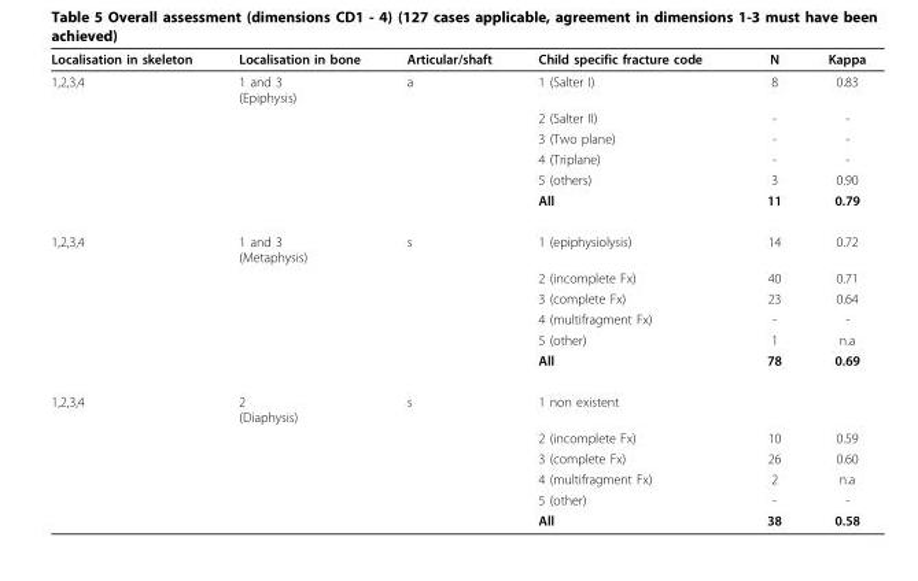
<table><thead><tr><td>Localisation in skeleton</td><td>Localisation in bone</td><td>Articular/shaft</td><td>Child specific fracture code</td><td>N</td><td>Kappa</td></tr></thead><tbody><tr><td rowspan="6">1,2,3,4</td><td>1 and 3 (Epiphysis)</td><td>a</td><td>1 (Salter I)</td><td>8</td><td>0.83</td></tr><tr><td></td><td></td><td>2 (Salter II)</td><td>-</td><td>-</td></tr><tr><td></td><td></td><td>3 (Two plane)</td><td>-</td><td>-</td></tr><tr><td></td><td></td><td>4 (Triplane)</td><td>-</td><td>-</td></tr><tr><td></td><td></td><td>5 (others)</td><td>3</td><td>0.90</td></tr><tr><td></td><td></td><td>All</td><td>11</td><td>0.79</td></tr><tr><td rowspan="6">1,2,3,4</td><td>1 and 3 (Metaphysis)</td><td>s</td><td>1 (epiphysiolysis)</td><td>14</td><td>0.72</td></tr><tr><td></td><td></td><td>2 (incomplete Fx)</td><td>40</td><td>0.71</td></tr><tr><td></td><td></td><td>3 (complete Fx)</td><td>23</td><td>0.64</td></tr><tr><td></td><td></td><td>4 (multifragment Fx)</td><td>-</td><td>-</td></tr><tr><td></td><td></td><td>5 (other)</td><td>1</td><td>n.a</td></tr><tr><td></td><td></td><td>All</td><td>78</td><td>0.69</td></tr><tr><td rowspan="6">1,2,3,4</td><td>2 (Diaphysis)</td><td>s</td><td>1 non existent</td><td></td><td></td></tr><tr><td></td><td></td><td>2 (incomplete Fx)</td><td>10</td><td>0.59</td></tr><tr><td></td><td></td><td>3 (complete Fx)</td><td>26</td><td>0.60</td></tr><tr><td></td><td></td><td>4 (multifragment Fx)</td><td>2</td><td>n.a</td></tr><tr><td></td><td></td><td>5 (other)</td><td>-</td><td>-</td></tr><tr><td></td><td></td><td>All</td><td>38</td><td>0.58</td></tr></tbody></table>